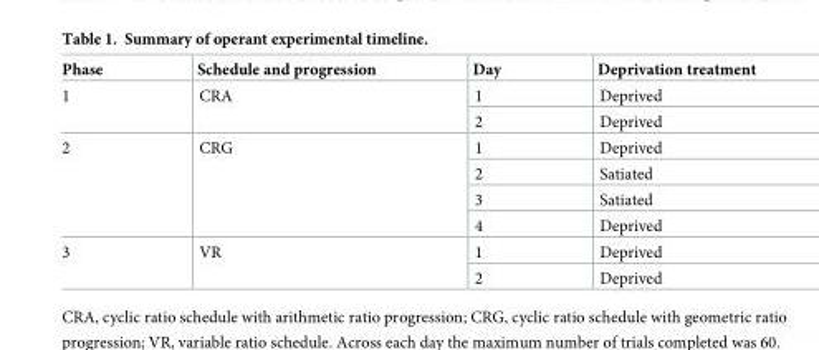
<table><thead><tr><td>Phase</td><td>Schedule and progression</td><td>Day</td><td>Deprivation treatment</td></tr></thead><tbody><tr><td rowspan="2">1</td><td rowspan="2">CRA</td><td>1</td><td>Deprived</td></tr><tr><td>2</td><td>Deprived</td></tr><tr><td rowspan="4">2</td><td rowspan="4">CRG</td><td>1</td><td>Deprived</td></tr><tr><td>2</td><td>Satiated</td></tr><tr><td>3</td><td>Satiated</td></tr><tr><td>4</td><td>Deprived</td></tr><tr><td rowspan="2">3</td><td rowspan="2">VR</td><td>1</td><td>Deprived</td></tr><tr><td>2</td><td>Deprived</td></tr></tbody></table>